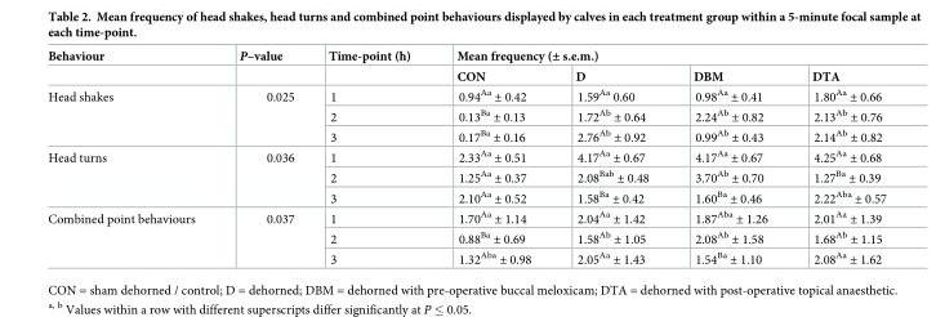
<table><thead><tr><td rowspan="2">Behaviour</td><td rowspan="2">P–value</td><td rowspan="2">Time-point (h)</td><td colspan="4">Mean frequency (± s.e.m.)</td></tr><tr><td>CON</td><td>D</td><td>DBM</td><td>DTA</td></tr></thead><tbody><tr><td rowspan="3">Head shakes</td><td rowspan="3">0.025</td><td>1</td><td>0.94<sup>Aa</sup> ± 0.42</td><td>1.59<sup>Aa</sup> 0.60</td><td>0.98<sup>Aa</sup> ± 0.41</td><td>1.80<sup>Aa</sup> ± 0.66</td></tr><tr><td>2</td><td>0.13<sup>Ba</sup> ± 0.13</td><td>1.72<sup>Ab</sup> ± 0.64</td><td>2.24<sup>Ab</sup> ± 0.82</td><td>2.13<sup>Ab</sup> ± 0.76</td></tr><tr><td>3</td><td>0.17<sup>Ba</sup> ± 0.16</td><td>2.76<sup>Ab</sup> ± 0.92</td><td>0.99<sup>Ab</sup> ± 0.43</td><td>2.14<sup>Ab</sup> ± 0.82</td></tr><tr><td rowspan="3">Head turns</td><td rowspan="3">0.036</td><td>1</td><td>2.33<sup>Aa</sup> ± 0.51</td><td>4.17<sup>Aa</sup> ± 0.67</td><td>4.17<sup>Aa</sup> ± 0.67</td><td>4.25<sup>Aa</sup> ± 0.68</td></tr><tr><td>2</td><td>1.25<sup>Aa</sup> ± 0.37</td><td>2.08<sup>Bab</sup> ± 0.48</td><td>3.70<sup>Ab</sup> ± 0.70</td><td>1.27<sup>Ba</sup> ± 0.39</td></tr><tr><td>3</td><td>2.10<sup>Aa</sup> ± 0.52</td><td>1.58<sup>Ba</sup> ± 0.42</td><td>1.60<sup>Ba</sup> ± 0.46</td><td>2.22<sup>Aba</sup> ± 0.57</td></tr><tr><td rowspan="3">Combined point behaviours</td><td rowspan="3">0.037</td><td>1</td><td>1.70<sup>Aa</sup> ± 1.14</td><td>2.04<sup>Aa</sup> ± 1.42</td><td>1.87<sup>Aba</sup> ± 1.26</td><td>2.01<sup>Aa</sup> ± 1.39</td></tr><tr><td>2</td><td>0.88<sup>Ba</sup> ± 0.69</td><td>1.58<sup>Ab</sup> ± 1.05</td><td>2.08<sup>Ab</sup> ± 1.58</td><td>1.68<sup>Ab</sup> ± 1.15</td></tr><tr><td>3</td><td>1.32<sup>Aba</sup> ± 0.98</td><td>2.05<sup>Aa</sup> ± 1.43</td><td>1.54<sup>Ba</sup> ± 1.10</td><td>2.08<sup>Aa</sup> ± 1.62</td></tr></tbody></table>